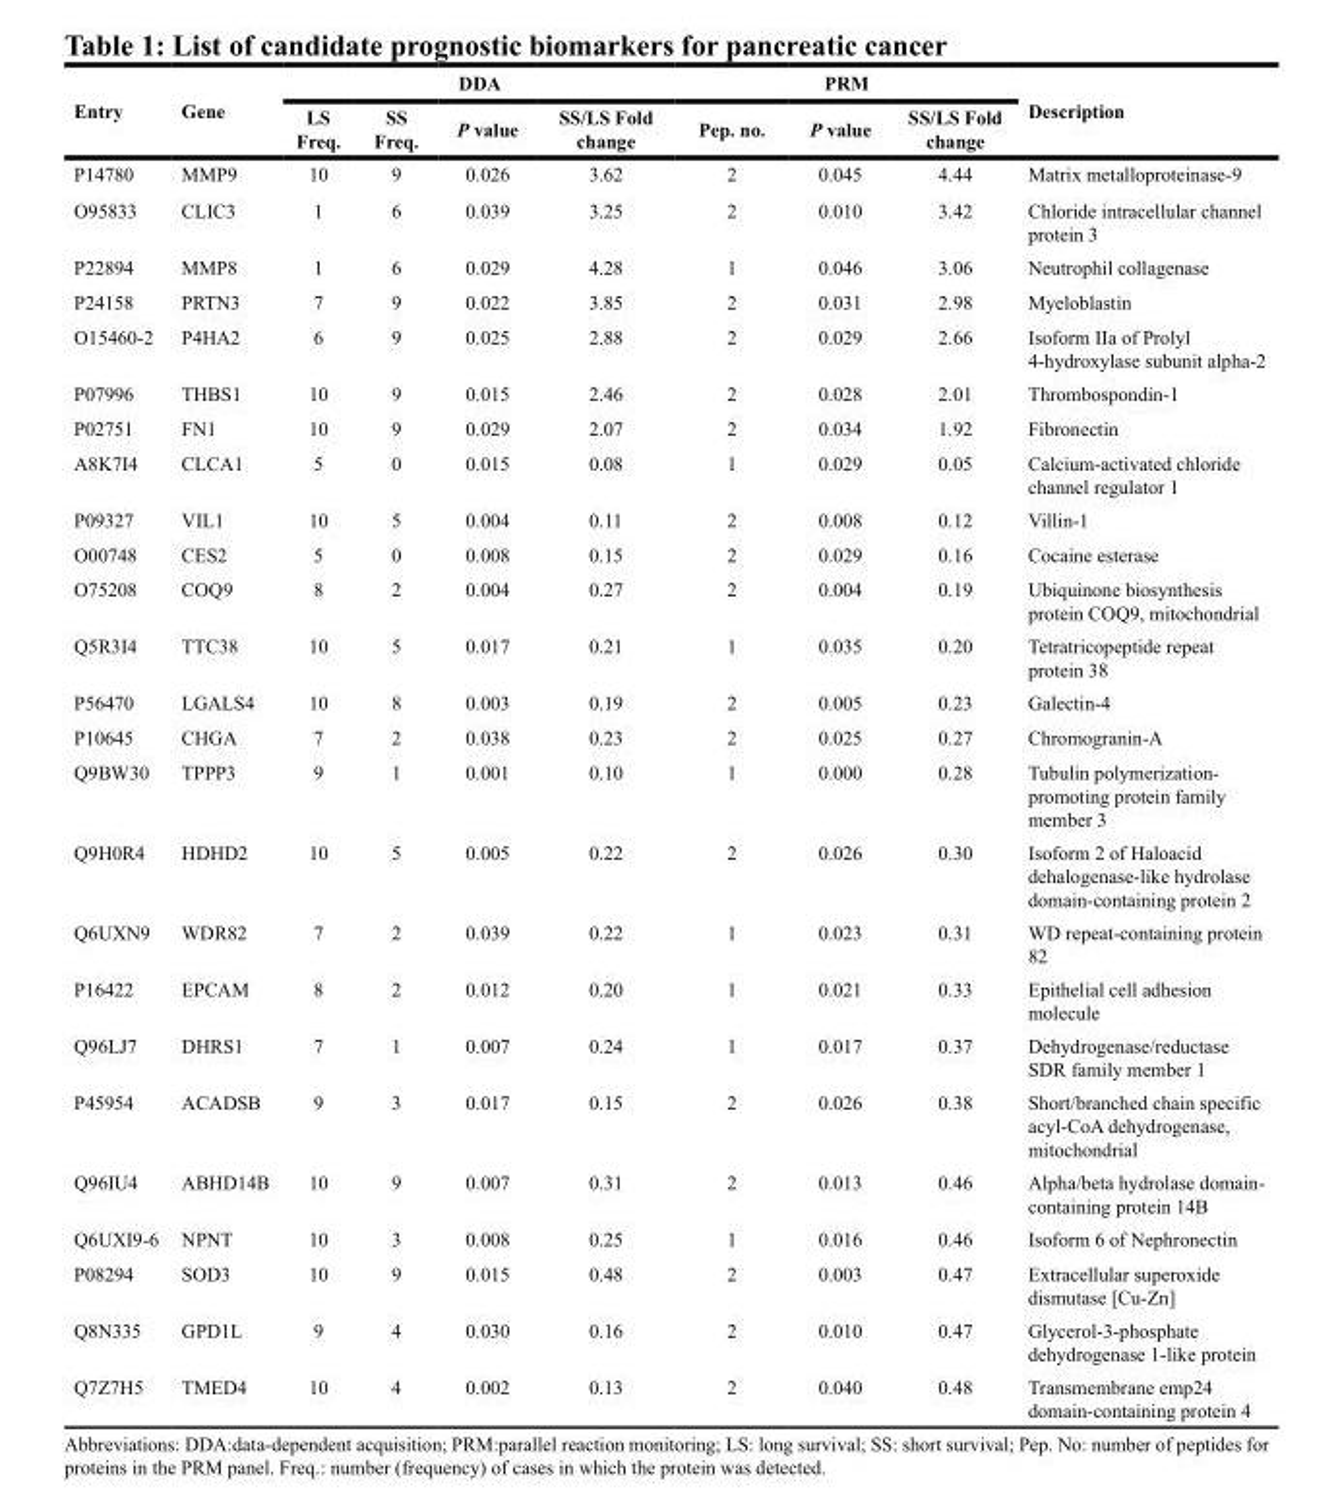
<table><thead><tr><td rowspan="2">Entry</td><td rowspan="2">Gene</td><td colspan="4">DDA</td><td colspan="3">PRM</td><td rowspan="2">Description</td></tr><tr><td>LS Freq.</td><td>SS Freq.</td><td>P value</td><td>SS/LS Fold change</td><td>Pep. no.</td><td>P value</td><td>SS/LS Fold change</td></tr></thead><tbody><tr><td>P14780</td><td>MMP9</td><td>10</td><td>9</td><td>0.026</td><td>3.62</td><td>2</td><td>0.045</td><td>4.44</td><td>Matrix metalloproteinase-9</td></tr><tr><td>O95833</td><td>CLIC3</td><td>1</td><td>6</td><td>0.039</td><td>3.25</td><td>2</td><td>0.010</td><td>3.42</td><td>Chloride intracellular channel protein 3</td></tr><tr><td>P22894</td><td>MMP8</td><td>1</td><td>6</td><td>0.029</td><td>4.28</td><td>1</td><td>0.046</td><td>3.06</td><td>Neutrophil collagenase</td></tr><tr><td>P24158</td><td>PRTN3</td><td>7</td><td>9</td><td>0.022</td><td>3.85</td><td>2</td><td>0.031</td><td>2.98</td><td>Myeloblastin</td></tr><tr><td>O15460-2</td><td>P4HA2</td><td>6</td><td>9</td><td>0.025</td><td>2.88</td><td>2</td><td>0.029</td><td>2.66</td><td>Isoform IIa of Prolyl 4-hydroxylase subunit alpha-2</td></tr><tr><td>P07996</td><td>THBS1</td><td>10</td><td>9</td><td>0.015</td><td>2.46</td><td>2</td><td>0.028</td><td>2.01</td><td>Thrombospondin-1</td></tr><tr><td>P02751</td><td>FN1</td><td>10</td><td>9</td><td>0.029</td><td>2.07</td><td>2</td><td>0.034</td><td>1.92</td><td>Fibronectin</td></tr><tr><td>A8K7I4</td><td>CLCA1</td><td>5</td><td>0</td><td>0.015</td><td>0.08</td><td>1</td><td>0.029</td><td>0.05</td><td>Calcium-activated chloride channel regulator 1</td></tr><tr><td>P09327</td><td>VIL1</td><td>10</td><td>5</td><td>0.004</td><td>0.11</td><td>2</td><td>0.008</td><td>0.12</td><td>Villin-1</td></tr><tr><td>O00748</td><td>CES2</td><td>5</td><td>0</td><td>0.008</td><td>0.15</td><td>2</td><td>0.029</td><td>0.16</td><td>Cocaine esterase</td></tr><tr><td>O75208</td><td>COQ9</td><td>8</td><td>2</td><td>0.004</td><td>0.27</td><td>2</td><td>0.004</td><td>0.19</td><td>Ubiquinone biosynthesis protein COQ9, mitochondrial</td></tr><tr><td>Q5R3I4</td><td>TTC38</td><td>10</td><td>5</td><td>0.017</td><td>0.21</td><td>1</td><td>0.035</td><td>0.20</td><td>Tetratricopeptide repeat protein 38</td></tr><tr><td>P56470</td><td>LGALS4</td><td>10</td><td>8</td><td>0.003</td><td>0.19</td><td>2</td><td>0.005</td><td>0.23</td><td>Galectin-4</td></tr><tr><td>P10645</td><td>CHGA</td><td>7</td><td>2</td><td>0.038</td><td>0.23</td><td>2</td><td>0.025</td><td>0.27</td><td>Chromogranin-A</td></tr><tr><td>Q9BW30</td><td>TPPP3</td><td>9</td><td>1</td><td>0.001</td><td>0.10</td><td>1</td><td>0.000</td><td>0.28</td><td>Tubulin polymerization- promoting protein family member 3</td></tr><tr><td>Q9H0R4</td><td>HDHD2</td><td>10</td><td>5</td><td>0.005</td><td>0.22</td><td>2</td><td>0.026</td><td>0.30</td><td>Isoform 2 of Haloacid dehalogenase-like hydrolase domain-containing protein 2</td></tr><tr><td>Q6UXN9</td><td>WDR82</td><td>7</td><td>2</td><td>0.039</td><td>0.22</td><td>1</td><td>0.023</td><td>0.31</td><td>WD repeat-containing protein 82</td></tr><tr><td>P16422</td><td>EPCAM</td><td>8</td><td>2</td><td>0.012</td><td>0.20</td><td>1</td><td>0.021</td><td>0.33</td><td>Epithelial cell adhesion molecule</td></tr><tr><td>Q96LJ7</td><td>DHRS1</td><td>7</td><td>1</td><td>0.007</td><td>0.24</td><td>1</td><td>0.017</td><td>0.37</td><td>Dehydrogenase/reductase SDR family member 1</td></tr><tr><td>P45954</td><td>ACADSB</td><td>9</td><td>3</td><td>0.017</td><td>0.15</td><td>2</td><td>0.026</td><td>0.38</td><td>Short/branched chain specific acyl-CoA dehydrogenase, mitochondrial</td></tr><tr><td>Q96IU4</td><td>ABHD14B</td><td>10</td><td>9</td><td>0.007</td><td>0.31</td><td>2</td><td>0.013</td><td>0.46</td><td>Alpha/beta hydrolase domain- containing protein 14B</td></tr><tr><td>Q6UXI9-6</td><td>NPNT</td><td>10</td><td>3</td><td>0.008</td><td>0.25</td><td>1</td><td>0.016</td><td>0.46</td><td>Isoform 6 of Nephronectin</td></tr><tr><td>P08294</td><td>SOD3</td><td>10</td><td>9</td><td>0.015</td><td>0.48</td><td>2</td><td>0.003</td><td>0.47</td><td>Extracellular superoxide dismutase [Cu-Zn]</td></tr><tr><td>Q8N335</td><td>GPD1L</td><td>9</td><td>4</td><td>0.030</td><td>0.16</td><td>2</td><td>0.010</td><td>0.47</td><td>Glycerol-3-phosphate dehydrogenase 1-like protein</td></tr><tr><td>Q7Z7H5</td><td>TMED4</td><td>10</td><td>4</td><td>0.002</td><td>0.13</td><td>2</td><td>0.040</td><td>0.48</td><td>Transmembrane emp24 domain-containing protein 4</td></tr></tbody></table>